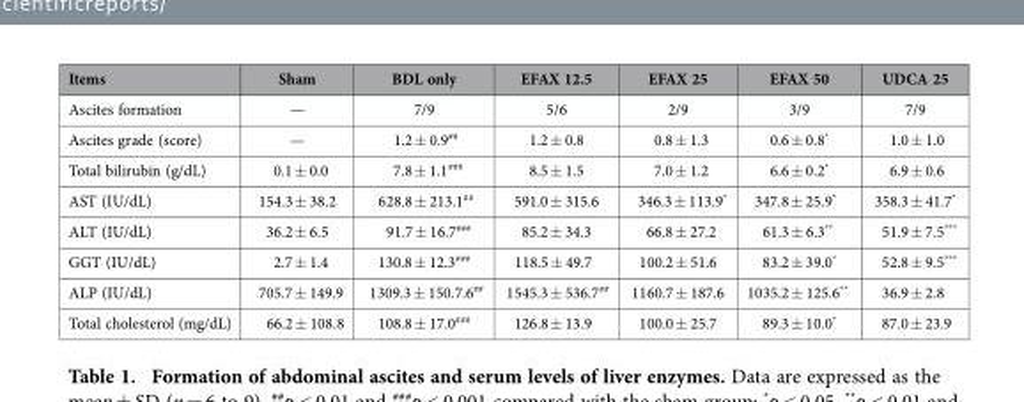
<table><thead><tr><td>Items</td><td>Sham</td><td>BDL only</td><td>EFAX 12.5</td><td>EFAX 25</td><td>EFAX 50</td><td>UDCA 25</td></tr></thead><tbody><tr><td>Ascites formation</td><td>—</td><td>7/9</td><td>5/6</td><td>2/9</td><td>3/9</td><td>7/9</td></tr><tr><td>Ascites grade (score)</td><td>—</td><td>1.2 ± 0.9<sup>##</sup></td><td>1.2 ± 0.8</td><td>0.8 ± 1.3</td><td>0.6 ± 0.8*</td><td>1.0 ± 1.0</td></tr><tr><td>Total bilirubin (g/dL)</td><td>0.1 ± 0.0</td><td>7.8 ± 1.1<sup>###</sup></td><td>8.5 ± 1.5</td><td>7.0 ± 1.2</td><td>6.6 ± 0.2*</td><td>6.9 ± 0.6</td></tr><tr><td>AST (IU/dL)</td><td>154.3 ± 38.2</td><td>628.8 ± 213.1<sup>##</sup></td><td>591.0 ± 315.6</td><td>346.3 ± 113.9*</td><td>347.8 ± 25.9*</td><td>358.3 ± 41.7*</td></tr><tr><td>ALT (IU/dL)</td><td>36.2 ± 6.5</td><td>91.7 ± 16.7<sup>###</sup></td><td>85.2 ± 34.3</td><td>66.8 ± 27.2</td><td>61.3 ± 6.3**</td><td>51.9 ± 7.5***</td></tr><tr><td>GGT (IU/dL)</td><td>2.7 ± 1.4</td><td>130.8 ± 12.3<sup>###</sup></td><td>118.5 ± 49.7</td><td>100.2 ± 51.6</td><td>83.2 ± 39.0*</td><td>52.8 ± 9.5***</td></tr><tr><td>ALP (IU/dL)</td><td>705.7 ± 149.9</td><td>1309.3 ± 150.7.6<sup>##</sup></td><td>1545.3 ± 536.7<sup>##</sup></td><td>1160.7 ± 187.6</td><td>1035.2 ± 125.6**</td><td>36.9 ± 2.8</td></tr><tr><td>Total cholesterol (mg/dL)</td><td>66.2 ± 108.8</td><td>108.8 ± 17.0<sup>###</sup></td><td>126.8 ± 13.9</td><td>100.0 ± 25.7</td><td>89.3 ± 10.0*</td><td>87.0 ± 23.9</td></tr></tbody></table>